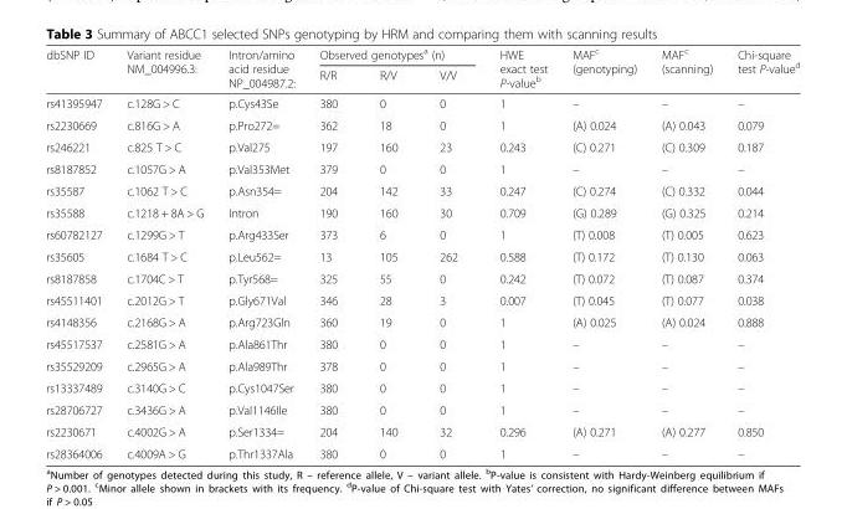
<table><thead><tr><td rowspan="2">dbSNP ID</td><td rowspan="2">Variant residue NM_004996.3:</td><td rowspan="2">Intron/amino acid residue NP_004987.2:</td><td colspan="3">Observed genotypes<sup>a</sup> (n)</td><td rowspan="2">HWE exact test P-value<sup>b</sup></td><td rowspan="2">MAF<sup>c</sup> (genotyping)</td><td rowspan="2">MAF<sup>c</sup> (scanning)</td><td rowspan="2">Chi-square test P-value<sup>d</sup></td></tr><tr><td>R/R</td><td>R/V</td><td>V/V</td></tr></thead><tbody><tr><td>rs41395947</td><td>c.128G &gt; C</td><td>p.Cys43Se</td><td>380</td><td>0</td><td>0</td><td>1</td><td>–</td><td>–</td><td>–</td></tr><tr><td>rs2230669</td><td>c.816G &gt; A</td><td>p.Pro272=</td><td>362</td><td>18</td><td>0</td><td>1</td><td>(A) 0.024</td><td>(A) 0.043</td><td>0.079</td></tr><tr><td>rs246221</td><td>c.825 T &gt; C</td><td>p.Val275</td><td>197</td><td>160</td><td>23</td><td>0.243</td><td>(C) 0.271</td><td>(C) 0.309</td><td>0.187</td></tr><tr><td>rs8187852</td><td>c.1057G &gt; A</td><td>p.Val353Met</td><td>379</td><td>0</td><td>0</td><td>1</td><td>–</td><td>–</td><td>–</td></tr><tr><td>rs35587</td><td>c.1062 T &gt; C</td><td>p.Asn354=</td><td>204</td><td>142</td><td>33</td><td>0.247</td><td>(C) 0.274</td><td>(C) 0.332</td><td>0.044</td></tr><tr><td>rs35588</td><td>c.1218 + 8A &gt; G</td><td>Intron</td><td>190</td><td>160</td><td>30</td><td>0.709</td><td>(G) 0.289</td><td>(G) 0.325</td><td>0.214</td></tr><tr><td>rs60782127</td><td>c.1299G &gt; T</td><td>p.Arg433Ser</td><td>373</td><td>6</td><td>0</td><td>1</td><td>(T) 0.008</td><td>(T) 0.005</td><td>0.623</td></tr><tr><td>rs35605</td><td>c.1684 T &gt; C</td><td>p.Leu562=</td><td>13</td><td>105</td><td>262</td><td>0.588</td><td>(T) 0.172</td><td>(T) 0.130</td><td>0.063</td></tr><tr><td>rs8187858</td><td>c.1704C &gt; T</td><td>p.Tyr568=</td><td>325</td><td>55</td><td>0</td><td>0.242</td><td>(T) 0.072</td><td>(T) 0.087</td><td>0.374</td></tr><tr><td>rs45511401</td><td>c.2012G &gt; T</td><td>p.Gly671Val</td><td>346</td><td>28</td><td>3</td><td>0.007</td><td>(T) 0.045</td><td>(T) 0.077</td><td>0.038</td></tr><tr><td>rs4148356</td><td>c.2168G &gt; A</td><td>p.Arg723Gln</td><td>360</td><td>19</td><td>0</td><td>1</td><td>(A) 0.025</td><td>(A) 0.024</td><td>0.888</td></tr><tr><td>rs45517537</td><td>c.2581G &gt; A</td><td>p.Ala861Thr</td><td>380</td><td>0</td><td>0</td><td>1</td><td>–</td><td>–</td><td>–</td></tr><tr><td>rs35529209</td><td>c.2965G &gt; A</td><td>p.Ala989Thr</td><td>378</td><td>0</td><td>0</td><td>1</td><td>–</td><td>–</td><td>–</td></tr><tr><td>rs13337489</td><td>c.3140G &gt; C</td><td>p.Cys1047Ser</td><td>380</td><td>0</td><td>0</td><td>1</td><td>–</td><td>–</td><td>–</td></tr><tr><td>rs28706727</td><td>c.3436G &gt; A</td><td>p.Val1146Ile</td><td>380</td><td>0</td><td>0</td><td>1</td><td>–</td><td>–</td><td>–</td></tr><tr><td>rs2230671</td><td>c.4002G &gt; A</td><td>p.Ser1334=</td><td>204</td><td>140</td><td>32</td><td>0.296</td><td>(A) 0.271</td><td>(A) 0.277</td><td>0.850</td></tr><tr><td>rs28364006</td><td>c.4009A &gt; G</td><td>p.Thr1337Ala</td><td>380</td><td>0</td><td>0</td><td>1</td><td>–</td><td>–</td><td>–</td></tr></tbody></table>